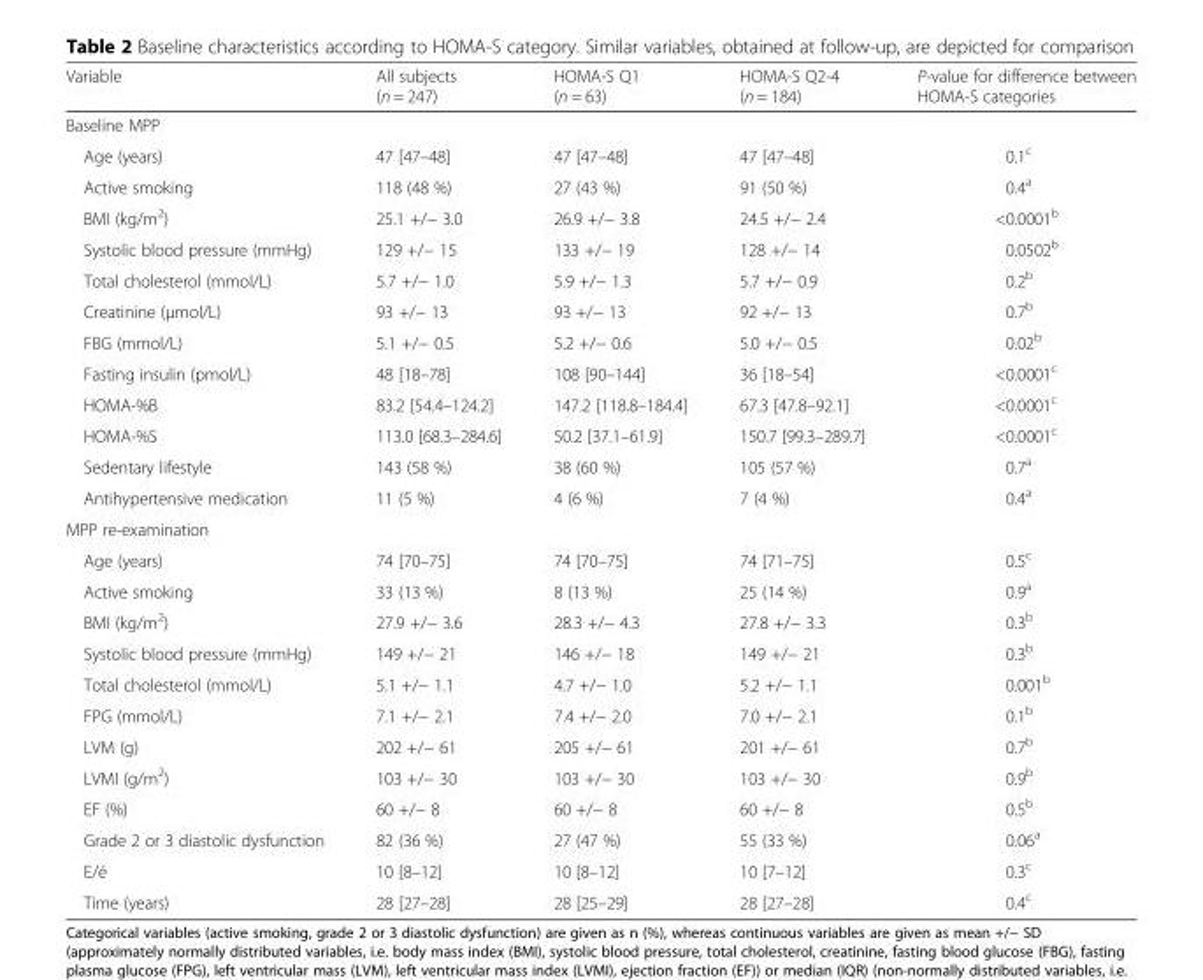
<table><thead><tr><td>Variable</td><td>All subjects (n = 247)</td><td>HOMA-S Q1 (n = 63)</td><td>HOMA-S Q2-4 (n = 184)</td><td>P-value for difference between HOMA-S categories</td></tr></thead><tbody><tr><td colspan="5">Baseline MPP</td></tr><tr><td>Age (years)</td><td>47 [47–48]</td><td>47 [47–48]</td><td>47 [47–48]</td><td>0.1<sup>c</sup></td></tr><tr><td>Active smoking</td><td>118 (48 %)</td><td>27 (43 %)</td><td>91 (50 %)</td><td>0.4<sup>a</sup></td></tr><tr><td>BMI (kg/m<sup>2</sup>)</td><td>25.1 +/− 3.0</td><td>26.9 +/− 3.8</td><td>24.5 +/− 2.4</td><td>&lt;0.0001<sup>b</sup></td></tr><tr><td>Systolic blood pressure (mmHg)</td><td>129 +/− 15</td><td>133 +/− 19</td><td>128 +/− 14</td><td>0.0502<sup>b</sup></td></tr><tr><td>Total cholesterol (mmol/L)</td><td>5.7 +/− 1.0</td><td>5.9 +/− 1.3</td><td>5.7 +/− 0.9</td><td>0.2<sup>b</sup></td></tr><tr><td>Creatinine (μmol/L)</td><td>93 +/− 13</td><td>93 +/− 13</td><td>92 +/− 13</td><td>0.7<sup>b</sup></td></tr><tr><td>FBG (mmol/L)</td><td>5.1 +/− 0.5</td><td>5.2 +/− 0.6</td><td>5.0 +/− 0.5</td><td>0.02<sup>b</sup></td></tr><tr><td>Fasting insulin (pmol/L)</td><td>48 [18–78]</td><td>108 [90–144]</td><td>36 [18–54]</td><td>&lt;0.0001<sup>c</sup></td></tr><tr><td>HOMA-%B</td><td>83.2 [54.4–124.2]</td><td>147.2 [118.8–184.4]</td><td>67.3 [47.8–92.1]</td><td>&lt;0.0001<sup>c</sup></td></tr><tr><td>HOMA-%S</td><td>113.0 [68.3–284.6]</td><td>50.2 [37.1–61.9]</td><td>150.7 [99.3–289.7]</td><td>&lt;0.0001<sup>c</sup></td></tr><tr><td>Sedentary lifestyle</td><td>143 (58 %)</td><td>38 (60 %)</td><td>105 (57 %)</td><td>0.7<sup>a</sup></td></tr><tr><td>Antihypertensive medication</td><td>11 (5 %)</td><td>4 (6 %)</td><td>7 (4 %)</td><td>0.4<sup>a</sup></td></tr><tr><td colspan="5">MPP re-examination</td></tr><tr><td>Age (years)</td><td>74 [70–75]</td><td>74 [70–75]</td><td>74 [71–75]</td><td>0.5<sup>c</sup></td></tr><tr><td>Active smoking</td><td>33 (13 %)</td><td>8 (13 %)</td><td>25 (14 %)</td><td>0.9<sup>a</sup></td></tr><tr><td>BMI (kg/m<sup>2</sup>)</td><td>27.9 +/− 3.6</td><td>28.3 +/− 4.3</td><td>27.8 +/− 3.3</td><td>0.3<sup>b</sup></td></tr><tr><td>Systolic blood pressure (mmHg)</td><td>149 +/− 21</td><td>146 +/− 18</td><td>149 +/− 21</td><td>0.3<sup>b</sup></td></tr><tr><td>Total cholesterol (mmol/L)</td><td>5.1 +/− 1.1</td><td>4.7 +/− 1.0</td><td>5.2 +/− 1.1</td><td>0.001<sup>b</sup></td></tr><tr><td>FPG (mmol/L)</td><td>7.1 +/− 2.1</td><td>7.4 +/− 2.0</td><td>7.0 +/− 2.1</td><td>0.1<sup>b</sup></td></tr><tr><td>LVM (g)</td><td>202 +/− 61</td><td>205 +/− 61</td><td>201 +/− 61</td><td>0.7<sup>b</sup></td></tr><tr><td>LVMI (g/m<sup>2</sup>)</td><td>103 +/− 30</td><td>103 +/− 30</td><td>103 +/− 30</td><td>0.9<sup>b</sup></td></tr><tr><td>EF (%)</td><td>60 +/− 8</td><td>60 +/− 8</td><td>60 +/− 8</td><td>0.5<sup>b</sup></td></tr><tr><td>Grade 2 or 3 diastolic dysfunction</td><td>82 (36 %)</td><td>27 (47 %)</td><td>55 (33 %)</td><td>0.06<sup>a</sup></td></tr><tr><td>E/é</td><td>10 [8–12]</td><td>10 [8–12]</td><td>10 [7–12]</td><td>0.3<sup>c</sup></td></tr><tr><td>Time (years)</td><td>28 [27–28]</td><td>28 [25–29]</td><td>28 [27–28]</td><td>0.4<sup>c</sup></td></tr></tbody></table>